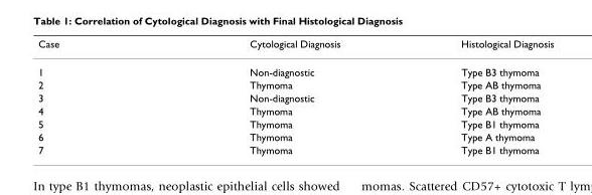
<table><thead><tr><td>Case</td><td>Cytological Diagnosis</td><td>Histological Diagnosis</td></tr></thead><tbody><tr><td>1</td><td>Non-diagnostic</td><td>Type B3 thymoma</td></tr><tr><td>2</td><td>Thymoma</td><td>Type AB thymoma</td></tr><tr><td>3</td><td>Non-diagnostic</td><td>Type B3 thymoma</td></tr><tr><td>4</td><td>Thymoma</td><td>Type AB thymoma</td></tr><tr><td>5</td><td>Thymoma</td><td>Type B1 thymoma</td></tr><tr><td>6</td><td>Thymoma</td><td>Type A thymoma</td></tr><tr><td>7</td><td>Thymoma</td><td>Type B1 thymoma</td></tr></tbody></table>